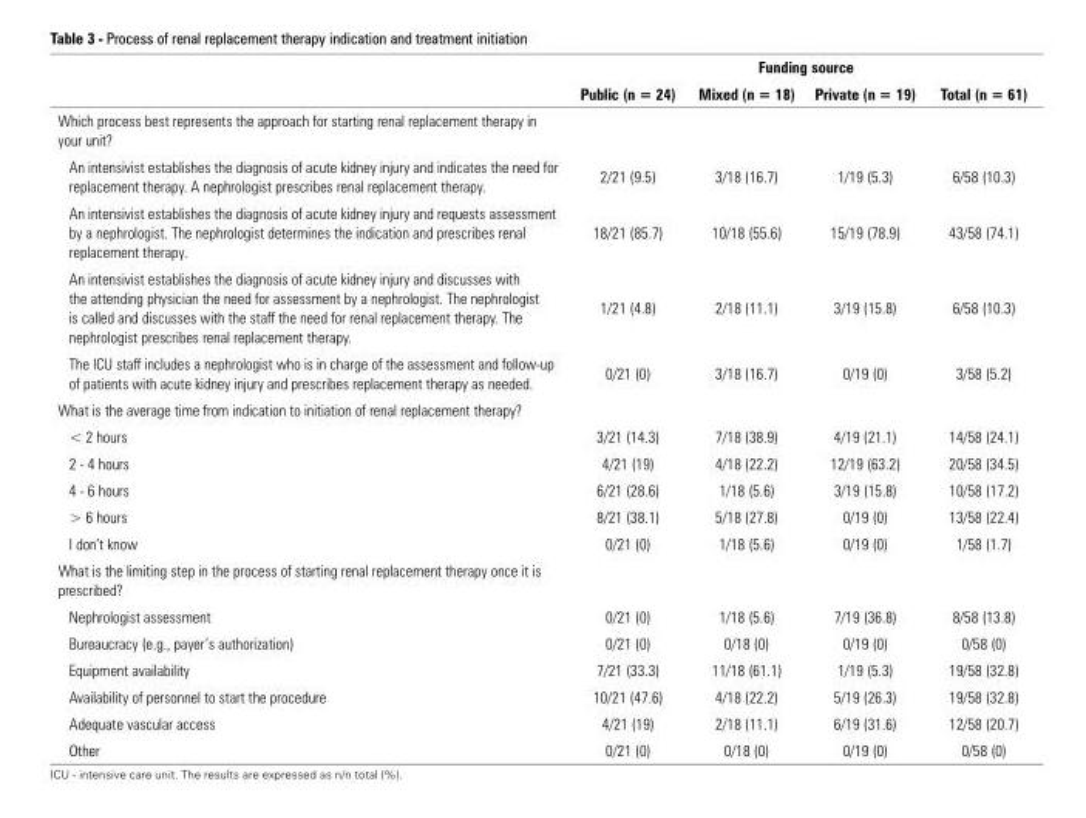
<table><thead><tr><td rowspan="2"></td><td colspan="4">Funding source</td></tr><tr><td>Public (n = 24)</td><td>Mixed (n = 18)</td><td>Private (n = 19)</td><td>Total (n = 61)</td></tr></thead><tbody><tr><td colspan="5">Which process best represents the approach for starting renal replacement therapy in your unit?</td></tr><tr><td>An intensivist establishes the diagnosis of acute kidney injury and indicates the need for replacement therapy. A nephrologist prescribes renal replacement therapy.</td><td>2/21 (9.5)</td><td>3/18 (16.7)</td><td>1/19 (5.3)</td><td>6/58 (10.3)</td></tr><tr><td>An intensivist establishes the diagnosis of acute kidney injury and requests assessment by a nephrologist. The nephrologist determines the indication and prescribes renal replacement therapy.</td><td>18/21 (85.7)</td><td>10/18 (55.6)</td><td>15/19 (78.9)</td><td>43/58 (74.1)</td></tr><tr><td>An intensivist establishes the diagnosis of acute kidney injury and discusses with the attending physician the need for assessment by a nephrologist. The nephrologist is called and discusses with the staff the need for renal replacement therapy. The nephrologist prescribes renal replacement therapy.</td><td>1/21 (4.8)</td><td>2/18 (11.1)</td><td>3/19 (15.8)</td><td>6/58 (10.3)</td></tr><tr><td>The ICU staff includes a nephrologist who is in charge of the assessment and follow-up of patients with acute kidney injury and prescribes replacement therapy as needed.</td><td>0/21 (0)</td><td>3/18 (16.7)</td><td>0/19 (0)</td><td>3/58 (5.2)</td></tr><tr><td colspan="5">What is the average time from indication to initiation of renal replacement therapy?</td></tr><tr><td>&lt; 2 hours</td><td>3/21 (14.3)</td><td>7/18 (38.9)</td><td>4/19 (21.1)</td><td>14/58 (24.1)</td></tr><tr><td>2 - 4 hours</td><td>4/21 (19)</td><td>4/18 (22.2)</td><td>12/19 (63.2)</td><td>20/58 (34.5)</td></tr><tr><td>4 - 6 hours</td><td>6/21 (28.6)</td><td>1/18 (5.6)</td><td>3/19 (15.8)</td><td>10/58 (17.2)</td></tr><tr><td>&gt; 6 hours</td><td>8/21 (38.1)</td><td>5/18 (27.8)</td><td>0/19 (0)</td><td>13/58 (22.4)</td></tr><tr><td>I don’t know</td><td>0/21 (0)</td><td>1/18 (5.6)</td><td>0/19 (0)</td><td>1/58 (1.7)</td></tr><tr><td colspan="5">What is the limiting step in the process of starting renal replacement therapy once it is prescribed?</td></tr><tr><td>Nephrologist assessment</td><td>0/21 (0)</td><td>1/18 (5.6)</td><td>7/19 (36.8)</td><td>8/58 (13.8)</td></tr><tr><td>Bureaucracy (e.g., payer’s authorization)</td><td>0/21 (0)</td><td>0/18 (0)</td><td>0/19 (0)</td><td>0/58 (0)</td></tr><tr><td>Equipment availability</td><td>7/21 (33.3)</td><td>11/18 (61.1)</td><td>1/19 (5.3)</td><td>19/58 (32.8)</td></tr><tr><td>Availability of personnel to start the procedure</td><td>10/21 (47.6)</td><td>4/18 (22.2)</td><td>5/19 (26.3)</td><td>19/58 (32.8)</td></tr><tr><td>Adequate vascular access</td><td>4/21 (19)</td><td>2/18 (11.1)</td><td>6/19 (31.6)</td><td>12/58 (20.7)</td></tr><tr><td>Other</td><td>0/21 (0)</td><td>0/18 (0)</td><td>0/19 (0)</td><td>0/58 (0)</td></tr></tbody></table>